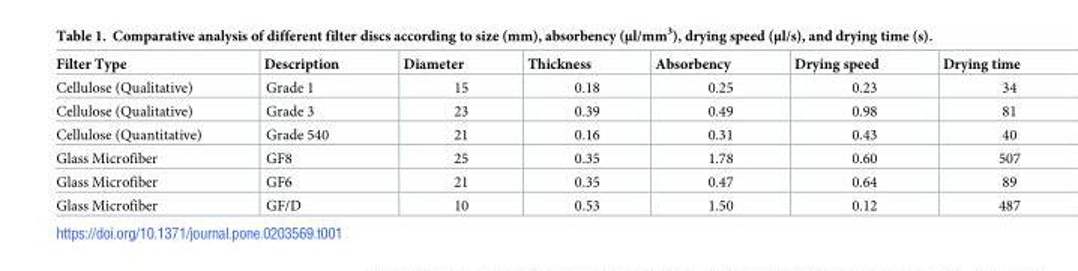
<table><thead><tr><td>Filter Type</td><td>Description</td><td>Diameter</td><td>Thickness</td><td>Absorbency</td><td>Drying speed</td><td>Drying time</td></tr></thead><tbody><tr><td>Cellulose (Qualitative)</td><td>Grade 1</td><td>15</td><td>0.18</td><td>0.25</td><td>0.23</td><td>34</td></tr><tr><td>Cellulose (Qualitative)</td><td>Grade 3</td><td>23</td><td>0.39</td><td>0.49</td><td>0.98</td><td>81</td></tr><tr><td>Cellulose (Quantitative)</td><td>Grade 540</td><td>21</td><td>0.16</td><td>0.31</td><td>0.43</td><td>40</td></tr><tr><td>Glass Microfiber</td><td>GF8</td><td>25</td><td>0.35</td><td>1.78</td><td>0.60</td><td>507</td></tr><tr><td>Glass Microfiber</td><td>GF6</td><td>21</td><td>0.35</td><td>0.47</td><td>0.64</td><td>89</td></tr><tr><td>Glass Microfiber</td><td>GF/D</td><td>10</td><td>0.53</td><td>1.50</td><td>0.12</td><td>487</td></tr></tbody></table>